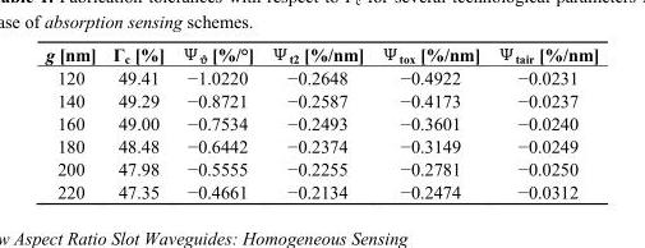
<table><thead><tr><td>g [nm]</td><td>Γ<sub>c</sub> [%]</td><td>Ψ<sub>ϑ</sub> [%/°]</td><td>Ψ<sub>t2</sub> [%/nm]</td><td>Ψ<sub>tox</sub> [%/nm]</td><td>Ψ<sub>tair</sub> [%/nm]</td></tr></thead><tbody><tr><td>120</td><td>49.41</td><td>−1.0220</td><td>−0.2648</td><td>−0.4922</td><td>−0.0231</td></tr><tr><td>140</td><td>49.29</td><td>−0.8721</td><td>−0.2587</td><td>−0.4173</td><td>−0.0237</td></tr><tr><td>160</td><td>49.00</td><td>−0.7534</td><td>−0.2493</td><td>−0.3601</td><td>−0.0240</td></tr><tr><td>180</td><td>48.48</td><td>−0.6442</td><td>−0.2374</td><td>−0.3149</td><td>−0.0249</td></tr><tr><td>200</td><td>47.98</td><td>−0.5555</td><td>−0.2255</td><td>−0.2781</td><td>−0.0250</td></tr><tr><td>220</td><td>47.35</td><td>−0.4661</td><td>−0.2134</td><td>−0.2474</td><td>−0.0312</td></tr></tbody></table>